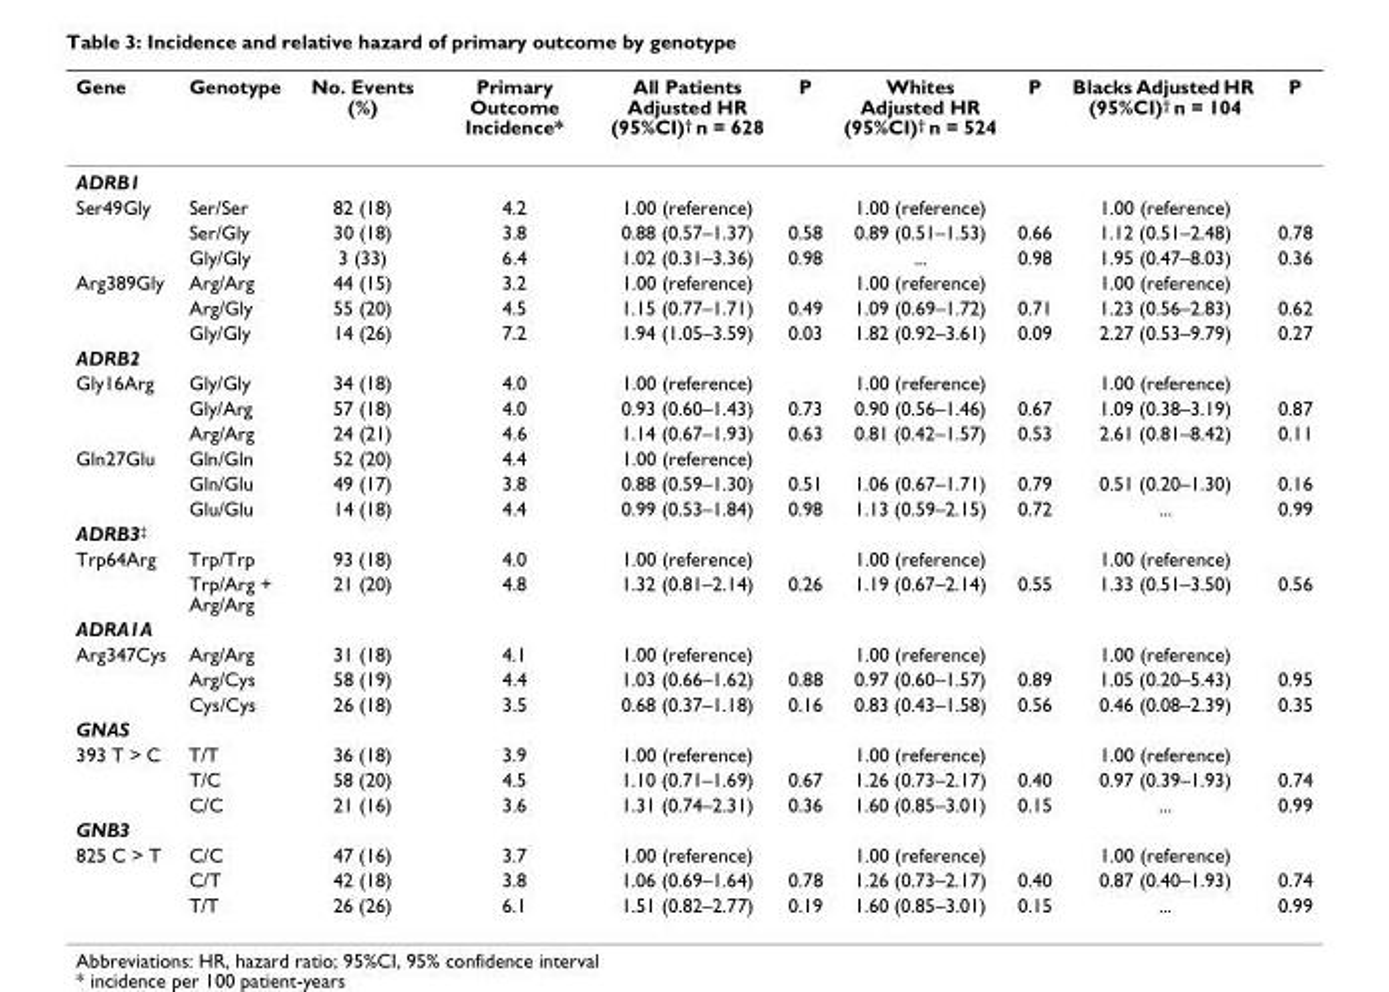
<table><thead><tr><td>Gene</td><td>Genotype</td><td>No. Events (%)</td><td>Primary Outcome Incidence*</td><td>All Patients Adjusted HR (95%CI)<sup>†</sup> n = 628</td><td>P</td><td>Whites Adjusted HR (95%CI)<sup>†</sup> n = 524</td><td>P</td><td>Blacks Adjusted HR (95%CI)<sup>†</sup> n = 104</td><td>P</td></tr></thead><tbody><tr><td colspan="10">ADRB1</td></tr><tr><td rowspan="3">Ser49Gly</td><td>Ser/Ser</td><td>82 (18)</td><td>4.2</td><td>1.00 (reference)</td><td></td><td>1.00 (reference)</td><td></td><td>1.00 (reference)</td><td></td></tr><tr><td>Ser/Gly</td><td>30 (18)</td><td>3.8</td><td>0.88 (0.57–1.37)</td><td>0.58</td><td>0.89 (0.51–1.53)</td><td>0.66</td><td>1.12 (0.51–2.48)</td><td>0.78</td></tr><tr><td>Gly/Gly</td><td>3 (33)</td><td>6.4</td><td>1.02 (0.31–3.36)</td><td>0.98</td><td>...</td><td>0.98</td><td>1.95 (0.47–8.03)</td><td>0.36</td></tr><tr><td rowspan="3">Arg389Gly</td><td>Arg/Arg</td><td>44 (15)</td><td>3.2</td><td>1.00 (reference)</td><td></td><td>1.00 (reference)</td><td></td><td>1.00 (reference)</td><td></td></tr><tr><td>Arg/Gly</td><td>55 (20)</td><td>4.5</td><td>1.15 (0.77–1.71)</td><td>0.49</td><td>1.09 (0.69–1.72)</td><td>0.71</td><td>1.23 (0.56–2.83)</td><td>0.62</td></tr><tr><td>Gly/Gly</td><td>14 (26)</td><td>7.2</td><td>1.94 (1.05–3.59)</td><td>0.03</td><td>1.82 (0.92–3.61)</td><td>0.09</td><td>2.27 (0.53–9.79)</td><td>0.27</td></tr><tr><td colspan="10">ADRB2</td></tr><tr><td rowspan="3">Gly16Arg</td><td>Gly/Gly</td><td>34 (18)</td><td>4.0</td><td>1.00 (reference)</td><td></td><td>1.00 (reference)</td><td></td><td>1.00 (reference)</td><td></td></tr><tr><td>Gly/Arg</td><td>57 (18)</td><td>4.0</td><td>0.93 (0.60–1.43)</td><td>0.73</td><td>0.90 (0.56–1.46)</td><td>0.67</td><td>1.09 (0.38–3.19)</td><td>0.87</td></tr><tr><td>Arg/Arg</td><td>24 (21)</td><td>4.6</td><td>1.14 (0.67–1.93)</td><td>0.63</td><td>0.81 (0.42–1.57)</td><td>0.53</td><td>2.61 (0.81–8.42)</td><td>0.11</td></tr><tr><td rowspan="3">Gln27Glu</td><td>Gln/Gln</td><td>52 (20)</td><td>4.4</td><td>1.00 (reference)</td><td></td><td></td><td></td><td></td><td></td></tr><tr><td>Gln/Glu</td><td>49 (17)</td><td>3.8</td><td>0.88 (0.59–1.30)</td><td>0.51</td><td>1.06 (0.67–1.71)</td><td>0.79</td><td>0.51 (0.20–1.30)</td><td>0.16</td></tr><tr><td>Glu/Glu</td><td>14 (18)</td><td>4.4</td><td>0.99 (0.53–1.84)</td><td>0.98</td><td>1.13 (0.59–2.15)</td><td>0.72</td><td>...</td><td>0.99</td></tr><tr><td colspan="10">ADRB3<sup>‡</sup></td></tr><tr><td rowspan="2">Trp64Arg</td><td>Trp/Trp</td><td>93 (18)</td><td>4.0</td><td>1.00 (reference)</td><td></td><td>1.00 (reference)</td><td></td><td>1.00 (reference)</td><td></td></tr><tr><td>Trp/Arg + Arg/Arg</td><td>21 (20)</td><td>4.8</td><td>1.32 (0.81–2.14)</td><td>0.26</td><td>1.19 (0.67–2.14)</td><td>0.55</td><td>1.33 (0.51–3.50)</td><td>0.56</td></tr><tr><td colspan="10">ADRA1A</td></tr><tr><td rowspan="3">Arg347Cys</td><td>Arg/Arg</td><td>31 (18)</td><td>4.1</td><td>1.00 (reference)</td><td></td><td>1.00 (reference)</td><td></td><td>1.00 (reference)</td><td></td></tr><tr><td>Arg/Cys</td><td>58 (19)</td><td>4.4</td><td>1.03 (0.66–1.62)</td><td>0.88</td><td>0.97 (0.60–1.57)</td><td>0.89</td><td>1.05 (0.20–5.43)</td><td>0.95</td></tr><tr><td>Cys/Cys</td><td>26 (18)</td><td>3.5</td><td>0.68 (0.37–1.18)</td><td>0.16</td><td>0.83 (0.43–1.58)</td><td>0.56</td><td>0.46 (0.08–2.39)</td><td>0.35</td></tr><tr><td colspan="10">GNAS</td></tr><tr><td rowspan="3">393 T &gt; C</td><td>T/T</td><td>36 (18)</td><td>3.9</td><td>1.00 (reference)</td><td></td><td>1.00 (reference)</td><td></td><td>1.00 (reference)</td><td></td></tr><tr><td>T/C</td><td>58 (20)</td><td>4.5</td><td>1.10 (0.71–1.69)</td><td>0.67</td><td>1.26 (0.73–2.17)</td><td>0.40</td><td>0.97 (0.39–1.93)</td><td>0.74</td></tr><tr><td>C/C</td><td>21 (16)</td><td>3.6</td><td>1.31 (0.74–2.31)</td><td>0.36</td><td>1.60 (0.85–3.01)</td><td>0.15</td><td>...</td><td>0.99</td></tr><tr><td colspan="10">GNB3</td></tr><tr><td rowspan="3">825 C &gt; T</td><td>C/C</td><td>47 (16)</td><td>3.7</td><td>1.00 (reference)</td><td></td><td>1.00 (reference)</td><td></td><td>1.00 (reference)</td><td></td></tr><tr><td>C/T</td><td>42 (18)</td><td>3.8</td><td>1.06 (0.69–1.64)</td><td>0.78</td><td>1.26 (0.73–2.17)</td><td>0.40</td><td>0.87 (0.40–1.93)</td><td>0.74</td></tr><tr><td>T/T</td><td>26 (26)</td><td>6.1</td><td>1.51 (0.82–2.77)</td><td>0.19</td><td>1.60 (0.85–3.01)</td><td>0.15</td><td>...</td><td>0.99</td></tr></tbody></table>